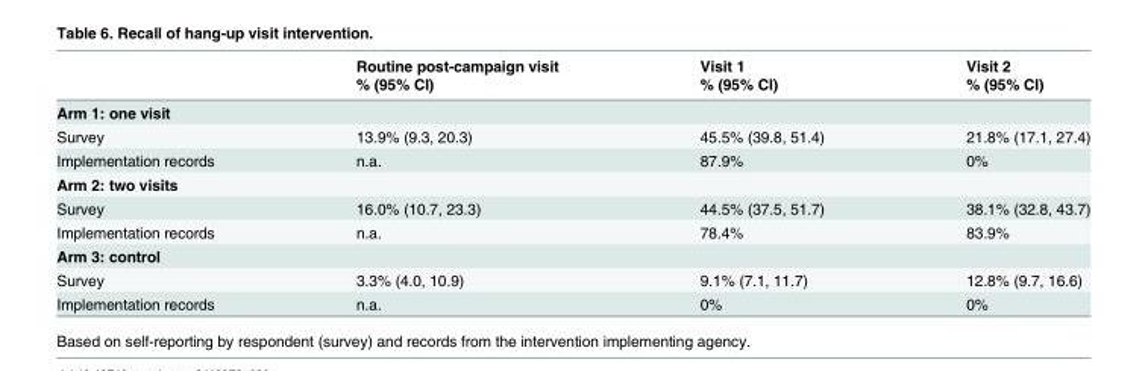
<table><thead><tr><td rowspan="2"></td><td rowspan="2">Routine post-campaign visit % (95% CI)</td><td rowspan="2">Visit 1 % (95% CI)</td><td rowspan="2">Visit 2 % (95% CI)</td></tr><tr></tr></thead><tbody><tr><td colspan="4">Arm 1: one visit</td></tr><tr><td>Survey</td><td>13.9% (9.3, 20.3)</td><td>45.5% (39.8, 51.4)</td><td>21.8% (17.1, 27.4)</td></tr><tr><td>Implementation records</td><td>n.a.</td><td>87.9%</td><td>0%</td></tr><tr><td colspan="4">Arm 2: two visits</td></tr><tr><td>Survey</td><td>16.0% (10.7, 23.3)</td><td>44.5% (37.5, 51.7)</td><td>38.1% (32.8, 43.7)</td></tr><tr><td>Implementation records</td><td>n.a.</td><td>78.4%</td><td>83.9%</td></tr><tr><td colspan="4">Arm 3: control</td></tr><tr><td>Survey</td><td>3.3% (4.0, 10.9)</td><td>9.1% (7.1, 11.7)</td><td>12.8% (9.7, 16.6)</td></tr><tr><td>Implementation records</td><td>n.a.</td><td>0%</td><td>0%</td></tr></tbody></table>